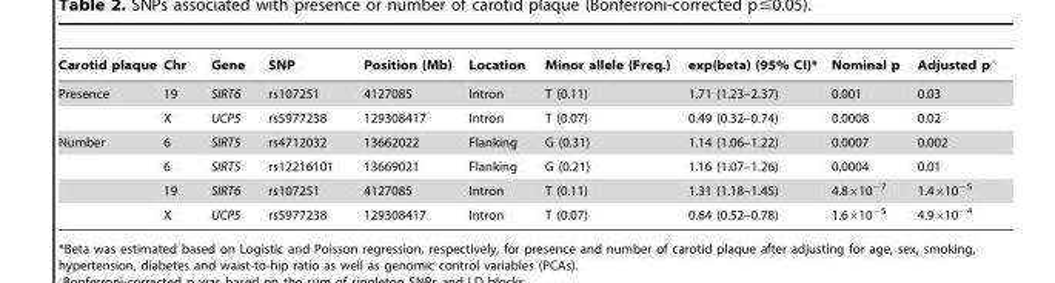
<table><thead><tr><td>Carotid plaque</td><td>Chr</td><td>Gene</td><td>SNP</td><td>Position (Mb)</td><td>Location</td><td>Minor allele (Freq.)</td><td>exp(beta) (95% CI)*</td><td>Nominal p</td><td>Adjusted p‘</td></tr></thead><tbody><tr><td rowspan="2">Presence</td><td>19</td><td>SIRT6</td><td>rs107251</td><td>4127085</td><td>Intron</td><td>T (0.11)</td><td>1.71 (1.23–2.37)</td><td>0.001</td><td>0.03</td></tr><tr><td>X</td><td>UCP5</td><td>rs5977238</td><td>129308417</td><td>Intron</td><td>T (0.07)</td><td>0.49 (0.32–0.74)</td><td>0.0008</td><td>0.02</td></tr><tr><td rowspan="4">Number</td><td>6</td><td>SIRT5</td><td>rs4712032</td><td>13662022</td><td>Flanking</td><td>G (0.31)</td><td>1.14 (1.06–1.22)</td><td>0.0007</td><td>0.002</td></tr><tr><td>6</td><td>SIRT5</td><td>rs12216101</td><td>13669021</td><td>Flanking</td><td>G (0.21)</td><td>1.16 (1.07–1.26)</td><td>0.0004</td><td>0.01</td></tr><tr><td>19</td><td>SIRT6</td><td>rs107251</td><td>4127085</td><td>Intron</td><td>T (0.11)</td><td>1.31 (1.18–1.45)</td><td>4.8×10<sup>−7</sup></td><td>1.4×10<sup>−5</sup></td></tr><tr><td>X</td><td>UCP5</td><td>rs5977238</td><td>129308417</td><td>Intron</td><td>T (0.07)</td><td>0.64 (0.52–0.78)</td><td>1.6×10<sup>−5</sup></td><td>4.9×10<sup>−4</sup></td></tr></tbody></table>